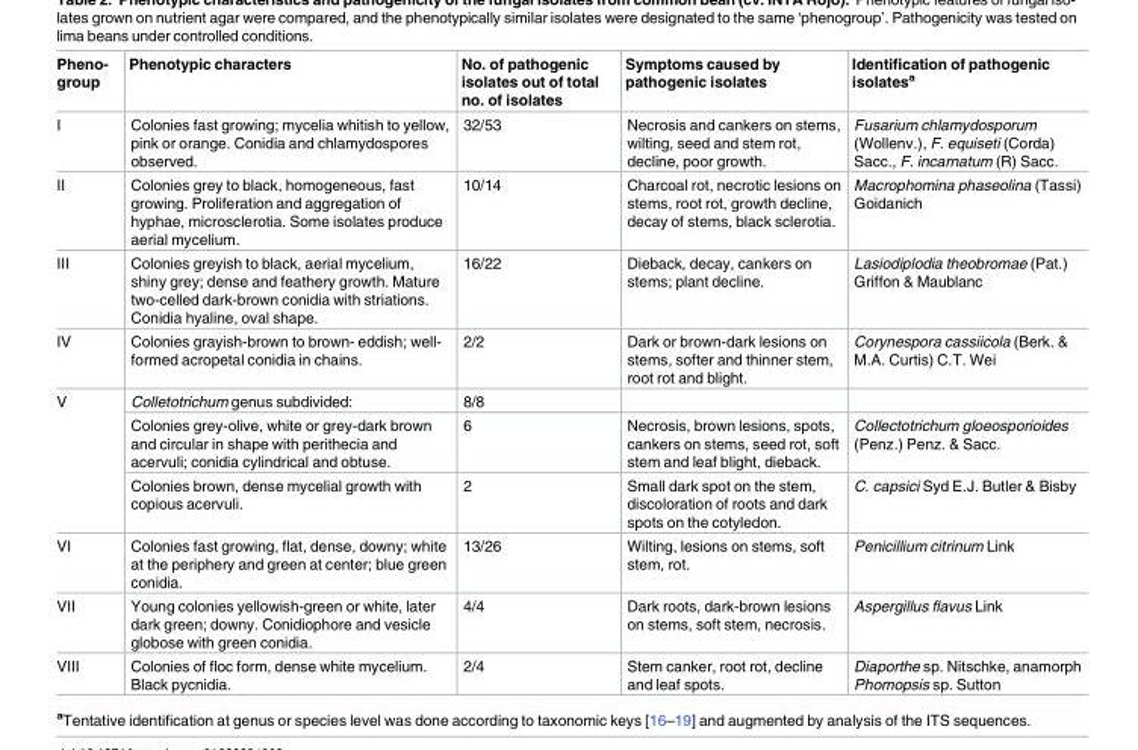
<table><thead><tr><td>Pheno- group</td><td>Phenotypic characters</td><td>No. of pathogenic isolates out of total no. of isolates</td><td>Symptoms caused by pathogenic isolates</td><td>Identification of pathogenic isolates<sup>a</sup></td></tr></thead><tbody><tr><td>I</td><td>Colonies fast growing; mycelia whitish to yellow, pink or orange. Conidia and chlamydospores observed.</td><td>32/53</td><td>Necrosis and cankers on stems, wilting, seed and stem rot, decline, poor growth.</td><td>Fusarium chlamydosporum (Wollenv.), F. equiseti (Corda) Sacc., F. incarnatum (R) Sacc.</td></tr><tr><td>II</td><td>Colonies grey to black, homogeneous, fast growing. Proliferation and aggregation of hyphae, microsclerotia. Some isolates produce aerial mycelium.</td><td>10/14</td><td>Charcoal rot, necrotic lesions on stems, root rot, growth decline, decay of stems, black sclerotia.</td><td>Macrophomina phaseolina (Tassi) Goidanich</td></tr><tr><td>III</td><td>Colonies greyish to black, aerial mycelium, shiny grey; dense and feathery growth. Mature two-celled dark-brown conidia with striations. Conidia hyaline, oval shape.</td><td>16/22</td><td>Dieback, decay, cankers on stems; plant decline.</td><td>Lasiodiplodia theobromae (Pat.) Griffon &amp; Maublanc</td></tr><tr><td>IV</td><td>Colonies grayish-brown to brown- eddish; well- formed acropetal conidia in chains.</td><td>2/2</td><td>Dark or brown-dark lesions on stems, softer and thinner stem, root rot and blight.</td><td>Corynespora cassiicola (Berk. &amp; M.A. Curtis) C.T. Wei</td></tr><tr><td rowspan="3">V</td><td>Colletotrichum genus subdivided:</td><td>8/8</td><td></td><td></td></tr><tr><td>Colonies grey-olive, white or grey-dark brown and circular in shape with perithecia and acervuli; conidia cylindrical and obtuse.</td><td>6</td><td>Necrosis, brown lesions, spots, cankers on stems, seed rot, soft stem and leaf blight, dieback.</td><td>Collectotrichum gloeosporioides (Penz.) Penz. &amp; Sacc.</td></tr><tr><td>Colonies brown, dense mycelial growth with copious acervuli.</td><td>2</td><td>Small dark spot on the stem, discoloration of roots and dark spots on the cotyledon.</td><td>C. capsici Syd E.J. Butler &amp; Bisby</td></tr><tr><td>VI</td><td>Colonies fast growing, flat, dense, downy; white at the periphery and green at center; blue green conidia.</td><td>13/26</td><td>Wilting, lesions on stems, soft stem, rot.</td><td>Penicillium citrinum Link</td></tr><tr><td>VII</td><td>Young colonies yellowish-green or white, later dark green; downy. Conidiophore and vesicle globose with green conidia.</td><td>4/4</td><td>Dark roots, dark-brown lesions on stems, soft stem, necrosis.</td><td>Aspergillus flavus Link</td></tr><tr><td>VIII</td><td>Colonies of floc form, dense white mycelium. Black pycnidia.</td><td>2/4</td><td>Stem canker, root rot, decline and leaf spots.</td><td>Diaporthe sp. Nitschke, anamorph Phomopsis sp. Sutton</td></tr></tbody></table>